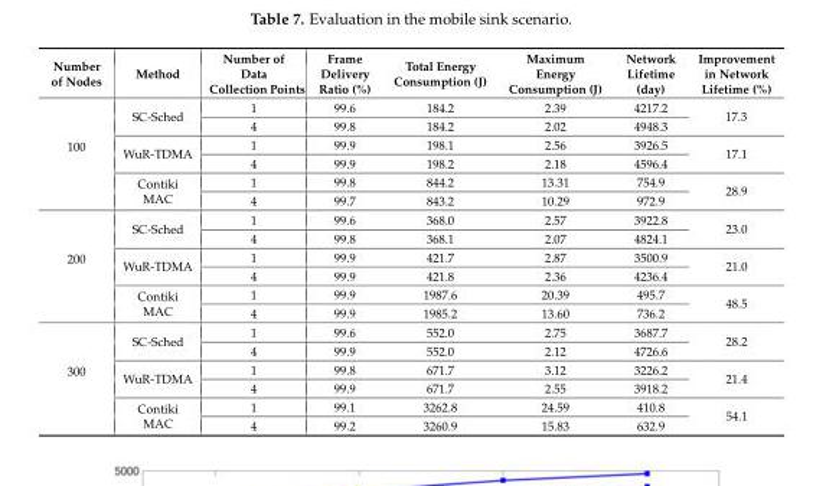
<table><thead><tr><td>Number of Nodes</td><td>Method</td><td>Number of Data Collection Points</td><td>Frame Delivery Ratio (%)</td><td>Total Energy Consumption (J)</td><td>Maximum Energy Consumption (J)</td><td>Network Lifetime (day)</td><td>Improvement in Network Lifetime (%)</td></tr></thead><tbody><tr><td rowspan="6">100</td><td rowspan="2">SC-Sched</td><td>1</td><td>99.6</td><td>184.2</td><td>2.39</td><td>4217.2</td><td rowspan="2">17.3</td></tr><tr><td>4</td><td>99.8</td><td>184.2</td><td>2.02</td><td>4948.3</td></tr><tr><td rowspan="2">WuR-TDMA</td><td>1</td><td>99.9</td><td>198.1</td><td>2.56</td><td>3926.5</td><td rowspan="2">17.1</td></tr><tr><td>4</td><td>99.9</td><td>198.2</td><td>2.18</td><td>4596.4</td></tr><tr><td rowspan="2">Contiki MAC</td><td>1</td><td>99.8</td><td>844.2</td><td>13.31</td><td>754.9</td><td rowspan="2">28.9</td></tr><tr><td>4</td><td>99.7</td><td>843.2</td><td>10.29</td><td>972.9</td></tr><tr><td rowspan="6">200</td><td rowspan="2">SC-Sched</td><td>1</td><td>99.6</td><td>368.0</td><td>2.57</td><td>3922.8</td><td rowspan="2">23.0</td></tr><tr><td>4</td><td>99.8</td><td>368.1</td><td>2.07</td><td>4824.1</td></tr><tr><td rowspan="2">WuR-TDMA</td><td>1</td><td>99.9</td><td>421.7</td><td>2.87</td><td>3500.9</td><td rowspan="2">21.0</td></tr><tr><td>4</td><td>99.9</td><td>421.8</td><td>2.36</td><td>4236.4</td></tr><tr><td rowspan="2">Contiki MAC</td><td>1</td><td>99.9</td><td>1987.6</td><td>20.39</td><td>495.7</td><td rowspan="2">48.5</td></tr><tr><td>4</td><td>99.9</td><td>1985.2</td><td>13.60</td><td>736.2</td></tr><tr><td rowspan="6">300</td><td rowspan="2">SC-Sched</td><td>1</td><td>99.6</td><td>552.0</td><td>2.75</td><td>3687.7</td><td rowspan="2">28.2</td></tr><tr><td>4</td><td>99.9</td><td>552.0</td><td>2.12</td><td>4726.6</td></tr><tr><td rowspan="2">WuR-TDMA</td><td>1</td><td>99.8</td><td>671.7</td><td>3.12</td><td>3226.2</td><td rowspan="2">21.4</td></tr><tr><td>4</td><td>99.9</td><td>671.7</td><td>2.55</td><td>3918.2</td></tr><tr><td rowspan="2">Contiki MAC</td><td>1</td><td>99.1</td><td>3262.8</td><td>24.59</td><td>410.8</td><td rowspan="2">54.1</td></tr><tr><td>4</td><td>99.2</td><td>3260.9</td><td>15.83</td><td>632.9</td></tr></tbody></table>